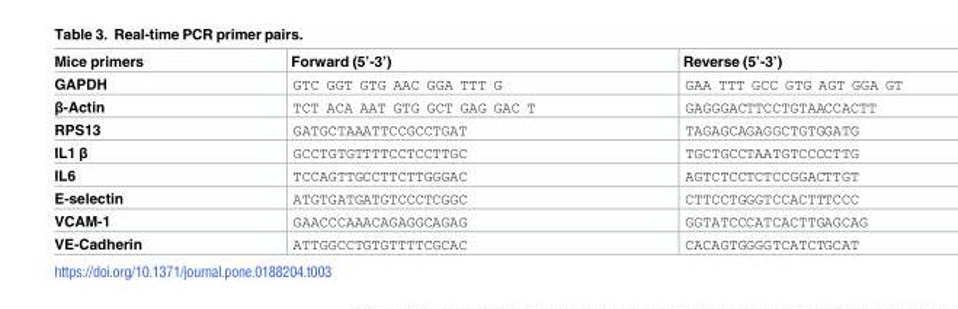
<table><thead><tr><td>Mice primers</td><td>Forward (5’-3’)</td><td>Reverse (5’-3’)</td></tr></thead><tbody><tr><td>GAPDH</td><td>GTC GGT GTG AAC GGA TTT G</td><td>GAA TTT GCC GTG AGT GGA GT</td></tr><tr><td>β-Actin</td><td>TCT ACA AAT GTG GCT GAG GAC T</td><td>GAGGGACTTCCTGTAACCACTT</td></tr><tr><td>RPS13</td><td>GATGCTAAATTCCGCCTGAT</td><td>TAGAGCAGAGGCTGTGGATG</td></tr><tr><td>IL1 β</td><td>GCCTGTGTTTTCCTCCTTGC</td><td>TGCTGCCTAATGTCCCCTTG</td></tr><tr><td>IL6</td><td>TCCAGTTGCCTTCTTGGGAC</td><td>AGTCTCCTCTCCGGACTTGT</td></tr><tr><td>E-selectin</td><td>ATGTGATGATGTCCCTCGGC</td><td>CTTCCTGGGTCCACTTTCCC</td></tr><tr><td>VCAM-1</td><td>GAACCCAAACAGAGGCAGAG</td><td>GGTATCCCATCACTTGAGCAG</td></tr><tr><td>VE-Cadherin</td><td>ATTGGCCTGTGTTTTCGCAC</td><td>CACAGTGGGGTCATCTGCAT</td></tr></tbody></table>